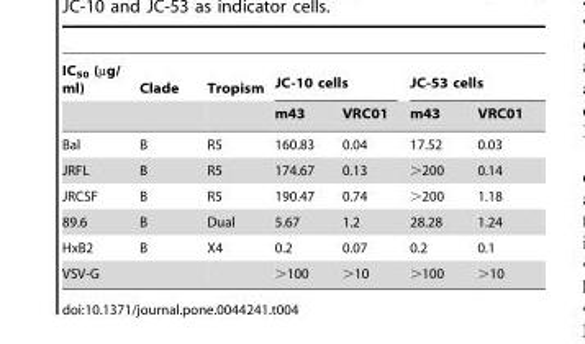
<table><thead><tr><td rowspan="2">IC<sub>50</sub> (µg/ ml)</td><td rowspan="2">Clade</td><td rowspan="2">Tropism</td><td colspan="2">JC-10 cells</td><td colspan="2">JC-53 cells</td></tr><tr><td>m43</td><td>VRC01</td><td>m43</td><td>VRC01</td></tr></thead><tbody><tr><td>Bal</td><td>B</td><td>R5</td><td>160.83</td><td>0.04</td><td>17.52</td><td>0.03</td></tr><tr><td>JRFL</td><td>B</td><td>R5</td><td>174.67</td><td>0.13</td><td>&gt;200</td><td>0.14</td></tr><tr><td>JRCSF</td><td>B</td><td>R5</td><td>190.47</td><td>0.74</td><td>&gt;200</td><td>1.18</td></tr><tr><td>89.6</td><td>B</td><td>Dual</td><td>5.67</td><td>1.2</td><td>28.28</td><td>1.24</td></tr><tr><td>HxB2</td><td>B</td><td>X4</td><td>0.2</td><td>0.07</td><td>0.2</td><td>0.1</td></tr><tr><td>VSV-G</td><td></td><td></td><td>&gt;100</td><td>&gt;10</td><td>&gt;100</td><td>&gt;10</td></tr></tbody></table>